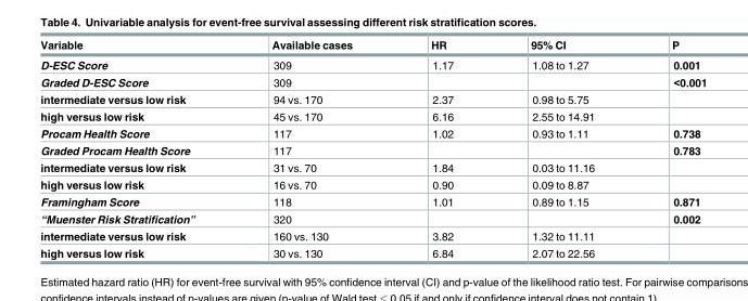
<table><thead><tr><td>Variable</td><td>Available cases</td><td>HR</td><td>95% CI</td><td>P</td></tr></thead><tbody><tr><td>D-ESC Score</td><td>309</td><td>1.17</td><td>1.08 to 1.27</td><td>0.001</td></tr><tr><td>Graded D-ESC Score</td><td>309</td><td></td><td></td><td>&lt;0.001</td></tr><tr><td>intermediate versus low risk</td><td>94 vs. 170</td><td>2.37</td><td>0.98 to 5.75</td><td></td></tr><tr><td>high versus low risk</td><td>45 vs. 170</td><td>6.16</td><td>2.55 to 14.91</td><td></td></tr><tr><td>Procam Health Score</td><td>117</td><td>1.02</td><td>0.93 to 1.11</td><td>0.738</td></tr><tr><td>Graded Procam Health Score</td><td>117</td><td></td><td></td><td>0.783</td></tr><tr><td>intermediate versus low risk</td><td>31 vs. 70</td><td>1.84</td><td>0.03 to 11.16</td><td></td></tr><tr><td>high versus low risk</td><td>16 vs. 70</td><td>0.90</td><td>0.09 to 8.87</td><td></td></tr><tr><td>Framingham Score</td><td>118</td><td>1.01</td><td>0.89 to 1.15</td><td>0.871</td></tr><tr><td>“Muenster Risk Stratification”</td><td>320</td><td></td><td></td><td>0.002</td></tr><tr><td>intermediate versus low risk</td><td>160 vs. 130</td><td>3.82</td><td>1.32 to 11.11</td><td></td></tr><tr><td>high versus low risk</td><td>30 vs. 130</td><td>6.84</td><td>2.07 to 22.56</td><td></td></tr></tbody></table>